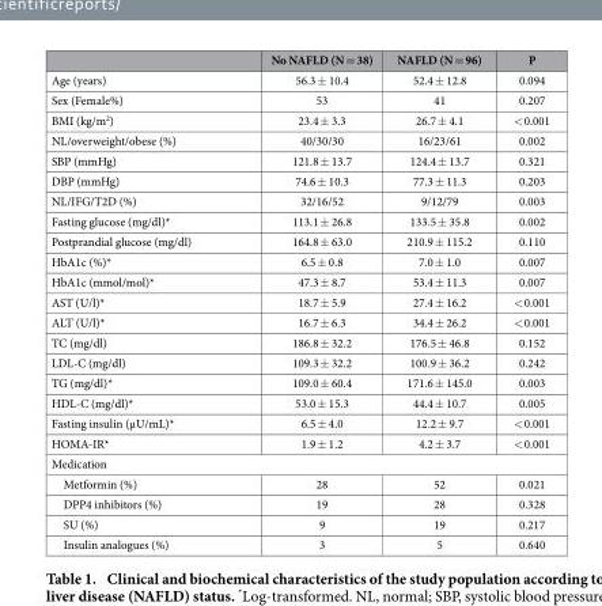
<table><thead><tr><td></td><td>No NAFLD (N = 38)</td><td>NAFLD (N = 96)</td><td>P</td></tr></thead><tbody><tr><td>Age (years)</td><td>56.3 ± 10.4</td><td>52.4 ± 12.8</td><td>0.094</td></tr><tr><td>Sex (Female%)</td><td>53</td><td>41</td><td>0.207</td></tr><tr><td>BMI (kg/m<sup>2</sup>)</td><td>23.4 ± 3.3</td><td>26.7 ± 4.1</td><td>&lt; 0.001</td></tr><tr><td>NL/overweight/obese (%)</td><td>40/30/30</td><td>16/23/61</td><td>0.002</td></tr><tr><td>SBP (mmHg)</td><td>121.8 ± 13.7</td><td>124.4 ± 13.7</td><td>0.321</td></tr><tr><td>DBP (mmHg)</td><td>74.6 ± 10.3</td><td>77.3 ± 11.3</td><td>0.203</td></tr><tr><td>NL/IFG/T2D (%)</td><td>32/16/52</td><td>9/12/79</td><td>0.003</td></tr><tr><td>Fasting glucose (mg/dl)*</td><td>113.1 ± 26.8</td><td>133.5 ± 35.8</td><td>0.002</td></tr><tr><td>Postprandial glucose (mg/dl)</td><td>164.8 ± 63.0</td><td>210.9 ± 115.2</td><td>0.110</td></tr><tr><td>HbA1c (%)*</td><td>6.5 ± 0.8</td><td>7.0 ± 1.0</td><td>0.007</td></tr><tr><td>HbA1c (mmol/mol)*</td><td>47.3 ± 8.7</td><td>53.4 ± 11.3</td><td>0.007</td></tr><tr><td>AST (U/l)*</td><td>18.7 ± 5.9</td><td>27.4 ± 16.2</td><td>&lt; 0.001</td></tr><tr><td>ALT (U/l)*</td><td>16.7 ± 6.3</td><td>34.4 ± 26.2</td><td>&lt; 0.001</td></tr><tr><td>TC (mg/dl)</td><td>186.8 ± 32.2</td><td>176.5 ± 46.8</td><td>0.152</td></tr><tr><td>LDL-C (mg/dl)</td><td>109.3 ± 32.2</td><td>100.9 ± 36.2</td><td>0.242</td></tr><tr><td>TG (mg/dl)*</td><td>109.0 ± 60.4</td><td>171.6 ± 145.0</td><td>0.003</td></tr><tr><td>HDL-C (mg/dl)*</td><td>53.0 ± 15.3</td><td>44.4 ± 10.7</td><td>0.005</td></tr><tr><td>Fasting insulin (μU/mL)*</td><td>6.5 ± 4.0</td><td>12.2 ± 9.7</td><td>&lt; 0.001</td></tr><tr><td>HOMA-IR*</td><td>1.9 ± 1.2</td><td>4.2 ± 3.7</td><td>&lt; 0.001</td></tr><tr><td colspan="4">Medication</td></tr><tr><td>Metformin (%)</td><td>28</td><td>52</td><td>0.021</td></tr><tr><td>DPP4 inhibitors (%)</td><td>19</td><td>28</td><td>0.328</td></tr><tr><td>SU (%)</td><td>9</td><td>19</td><td>0.217</td></tr><tr><td>Insulin analogues (%)</td><td>3</td><td>5</td><td>0.640</td></tr></tbody></table>